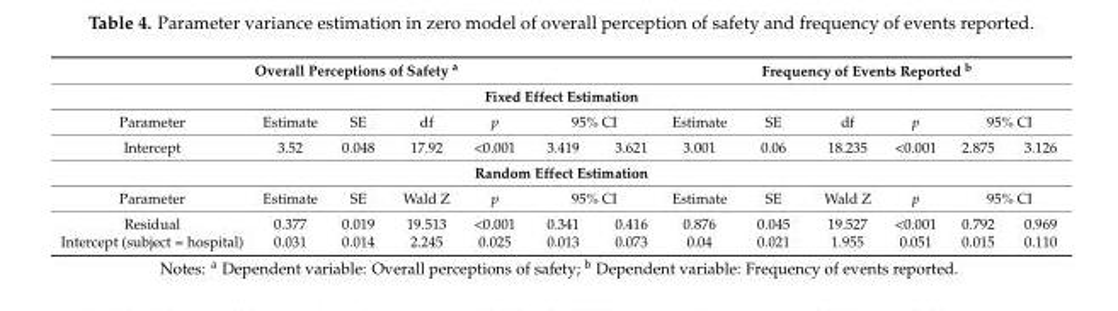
<table><thead><tr><td colspan="7">Overall Perceptions of Safety <sup>a</sup></td><td colspan="6">Frequency of Events Reported <sup>b</sup></td></tr><tr><td colspan="13">Fixed Effect Estimation</td></tr><tr><td rowspan="2">Parameter Intercept</td><td rowspan="2">Estimate 3.52</td><td rowspan="2">SE 0.048</td><td rowspan="2">df 17.92</td><td rowspan="2">p &lt;0.001</td><td colspan="2">95% CI</td><td rowspan="2">Estimate 3.001</td><td rowspan="2">SE 0.06</td><td rowspan="2">df 18.235</td><td rowspan="2">p &lt;0.001</td><td colspan="2">95% CI</td></tr><tr><td>3.419</td><td>3.621</td><td>2.875</td><td>3.126</td></tr></thead><tbody><tr><td colspan="13">Random Effect Estimation</td></tr><tr><td>Parameter</td><td>Estimate</td><td>SE</td><td>Wald Z</td><td>p</td><td colspan="2">95% CI</td><td>Estimate</td><td>SE</td><td>Wald Z</td><td>p</td><td colspan="2">95% CI</td></tr><tr><td>Residual</td><td>0.377</td><td>0.019</td><td>19.513</td><td>&lt;0.001</td><td>0.341</td><td>0.416</td><td>0.876</td><td>0.045</td><td>19.527</td><td>&lt;0.001</td><td>0.792</td><td>0.969</td></tr><tr><td>Intercept (subject = hospital)</td><td>0.031</td><td>0.014</td><td>2.245</td><td>0.025</td><td>0.013</td><td>0.073</td><td>0.04</td><td>0.021</td><td>1.955</td><td>0.051</td><td>0.015</td><td>0.110</td></tr></tbody></table>